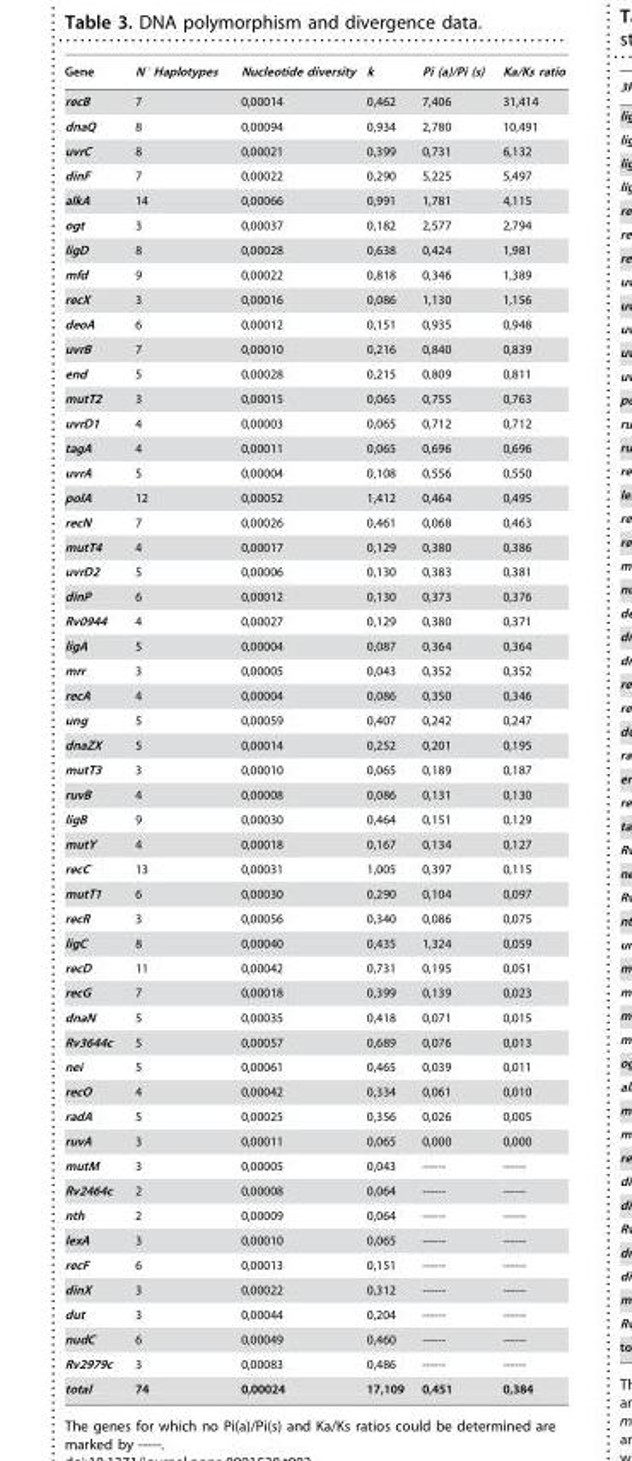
<table><thead><tr><td>Gene</td><td>N° Haplotypes</td><td>Nucleotide diversity</td><td>k</td><td>Pi (a)/Pi (s)</td><td>Ka/Ks ratio</td></tr></thead><tbody><tr><td>recB</td><td>7</td><td>0,00014</td><td>0,462</td><td>7,406</td><td>31,414</td></tr><tr><td>dnaQ</td><td>8</td><td>0,00094</td><td>0,934</td><td>2,780</td><td>10,491</td></tr><tr><td>uvrC</td><td>8</td><td>0,00021</td><td>0,399</td><td>0,731</td><td>6,132</td></tr><tr><td>dinF</td><td>7</td><td>0,00022</td><td>0,290</td><td>5,225</td><td>5,497</td></tr><tr><td>alkA</td><td>14</td><td>0,00066</td><td>0,991</td><td>1,781</td><td>4,115</td></tr><tr><td>ogt</td><td>3</td><td>0,00037</td><td>0,182</td><td>2,577</td><td>2,794</td></tr><tr><td>ligD</td><td>8</td><td>0,00028</td><td>0,638</td><td>0,424</td><td>1,981</td></tr><tr><td>mfd</td><td>9</td><td>0,00022</td><td>0,818</td><td>0,346</td><td>1,389</td></tr><tr><td>recX</td><td>3</td><td>0,00016</td><td>0,086</td><td>1,130</td><td>1,156</td></tr><tr><td>deoA</td><td>6</td><td>0,00012</td><td>0,151</td><td>0,935</td><td>0,948</td></tr><tr><td>uvrB</td><td>7</td><td>0,00010</td><td>0,216</td><td>0,840</td><td>0,839</td></tr><tr><td>end</td><td>5</td><td>0,00028</td><td>0,215</td><td>0,809</td><td>0,811</td></tr><tr><td>mutT2</td><td>3</td><td>0,00015</td><td>0,065</td><td>0,755</td><td>0,763</td></tr><tr><td>uvrD1</td><td>4</td><td>0,00003</td><td>0,065</td><td>0,712</td><td>0,712</td></tr><tr><td>tagA</td><td>4</td><td>0,00011</td><td>0,065</td><td>0,696</td><td>0,696</td></tr><tr><td>uvrA</td><td>5</td><td>0,00004</td><td>0,108</td><td>0,556</td><td>0,550</td></tr><tr><td>polA</td><td>12</td><td>0,00052</td><td>1,412</td><td>0,464</td><td>0,495</td></tr><tr><td>recN</td><td>7</td><td>0,00026</td><td>0,461</td><td>0,068</td><td>0,463</td></tr><tr><td>mutT4</td><td>4</td><td>0,00017</td><td>0,129</td><td>0,380</td><td>0,386</td></tr><tr><td>uvrD2</td><td>5</td><td>0,00006</td><td>0,130</td><td>0,383</td><td>0,381</td></tr><tr><td>dinP</td><td>6</td><td>0,00012</td><td>0,130</td><td>0,373</td><td>0,376</td></tr><tr><td>Rv0944</td><td>4</td><td>0,00027</td><td>0,129</td><td>0,380</td><td>0,371</td></tr><tr><td>ligA</td><td>5</td><td>0,00004</td><td>0,087</td><td>0,364</td><td>0,364</td></tr><tr><td>mrr</td><td>3</td><td>0,00005</td><td>0,043</td><td>0,352</td><td>0,352</td></tr><tr><td>recA</td><td>4</td><td>0,00004</td><td>0,086</td><td>0,350</td><td>0,346</td></tr><tr><td>ung</td><td>5</td><td>0,00059</td><td>0,407</td><td>0,242</td><td>0,247</td></tr><tr><td>dnaZX</td><td>5</td><td>0,00014</td><td>0,252</td><td>0,201</td><td>0,195</td></tr><tr><td>mutT3</td><td>3</td><td>0,00010</td><td>0,065</td><td>0,189</td><td>0,187</td></tr><tr><td>ruvB</td><td>4</td><td>0,00008</td><td>0,086</td><td>0,131</td><td>0,130</td></tr><tr><td>ligB</td><td>9</td><td>0,00030</td><td>0,464</td><td>0,151</td><td>0,129</td></tr><tr><td>mutY</td><td>4</td><td>0,00018</td><td>0,167</td><td>0,134</td><td>0,127</td></tr><tr><td>recC</td><td>13</td><td>0,00031</td><td>1,005</td><td>0,397</td><td>0,115</td></tr><tr><td>mutT1</td><td>6</td><td>0,00030</td><td>0,290</td><td>0,104</td><td>0,097</td></tr><tr><td>recR</td><td>3</td><td>0,00056</td><td>0,340</td><td>0,086</td><td>0,075</td></tr><tr><td>ligC</td><td>8</td><td>0,00040</td><td>0,435</td><td>1,324</td><td>0,059</td></tr><tr><td>recD</td><td>11</td><td>0,00042</td><td>0,731</td><td>0,195</td><td>0,051</td></tr><tr><td>recG</td><td>7</td><td>0,00018</td><td>0,399</td><td>0,139</td><td>0,023</td></tr><tr><td>dnaN</td><td>5</td><td>0,00035</td><td>0,418</td><td>0,071</td><td>0,015</td></tr><tr><td>Rv3644c</td><td>5</td><td>0,00057</td><td>0,689</td><td>0,076</td><td>0,013</td></tr><tr><td>nei</td><td>5</td><td>0,00061</td><td>0,465</td><td>0,039</td><td>0,011</td></tr><tr><td>recO</td><td>4</td><td>0,00042</td><td>0,334</td><td>0,061</td><td>0,010</td></tr><tr><td>radA</td><td>5</td><td>0,00025</td><td>0,356</td><td>0,026</td><td>0,005</td></tr><tr><td>ruvA</td><td>3</td><td>0,00011</td><td>0,065</td><td>0,000</td><td>0,000</td></tr><tr><td>mutM</td><td>3</td><td>0,00005</td><td>0,043</td><td>------</td><td>------</td></tr><tr><td>Rv2464c</td><td>2</td><td>0,00008</td><td>0,064</td><td>------</td><td>------</td></tr><tr><td>nth</td><td>2</td><td>0,00009</td><td>0,064</td><td>------</td><td>------</td></tr><tr><td>lexA</td><td>3</td><td>0,00010</td><td>0,065</td><td>------</td><td>------</td></tr><tr><td>recF</td><td>6</td><td>0,00013</td><td>0,151</td><td>------</td><td>------</td></tr><tr><td>dinX</td><td>3</td><td>0,00022</td><td>0,312</td><td>------</td><td>------</td></tr><tr><td>dut</td><td>3</td><td>0,00044</td><td>0,204</td><td>------</td><td>------</td></tr><tr><td>nudC</td><td>6</td><td>0,00049</td><td>0,460</td><td>------</td><td>------</td></tr><tr><td>Rv2979c</td><td>3</td><td>0,00083</td><td>0,486</td><td>------</td><td>------</td></tr><tr><td>total</td><td>74</td><td>0,00024</td><td>17,109</td><td>0,451</td><td>0,384</td></tr></tbody></table>